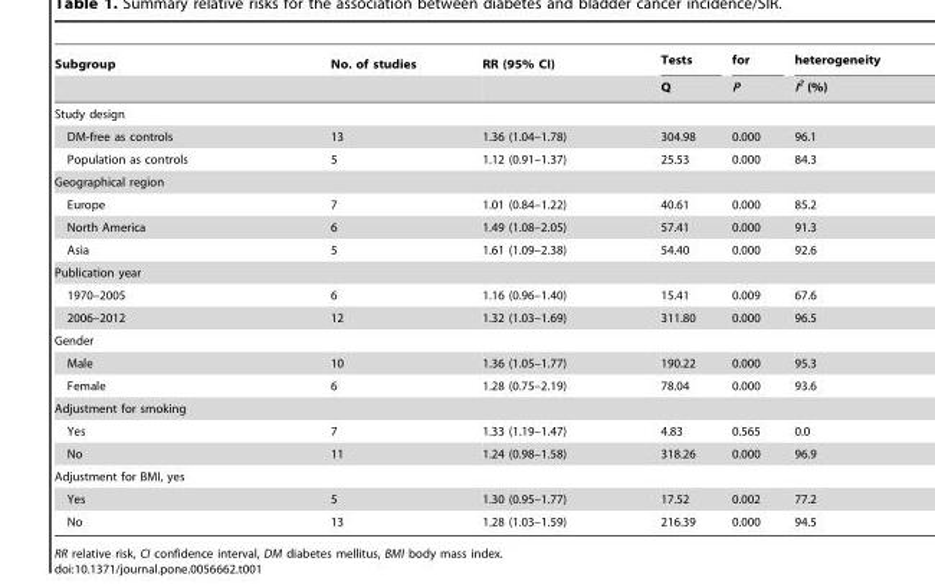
<table><thead><tr><td rowspan="2">Subgroup</td><td rowspan="2">No. of studies</td><td rowspan="2">RR (95% CI)</td><td rowspan="2">Tests Q</td><td rowspan="2">for P</td><td rowspan="2">heterogeneity I<sup>2</sup> (%)</td></tr><tr></tr></thead><tbody><tr><td colspan="6">Study design</td></tr><tr><td>DM-free as controls</td><td>13</td><td>1.36 (1.04–1.78)</td><td>304.98</td><td>0.000</td><td>96.1</td></tr><tr><td>Population as controls</td><td>5</td><td>1.12 (0.91–1.37)</td><td>25.53</td><td>0.000</td><td>84.3</td></tr><tr><td colspan="6">Geographical region</td></tr><tr><td>Europe</td><td>7</td><td>1.01 (0.84–1.22)</td><td>40.61</td><td>0.000</td><td>85.2</td></tr><tr><td>North America</td><td>6</td><td>1.49 (1.08–2.05)</td><td>57.41</td><td>0.000</td><td>91.3</td></tr><tr><td>Asia</td><td>5</td><td>1.61 (1.09–2.38)</td><td>54.40</td><td>0.000</td><td>92.6</td></tr><tr><td colspan="6">Publication year</td></tr><tr><td>1970–2005</td><td>6</td><td>1.16 (0.96–1.40)</td><td>15.41</td><td>0.009</td><td>67.6</td></tr><tr><td>2006–2012</td><td>12</td><td>1.32 (1.03–1.69)</td><td>311.80</td><td>0.000</td><td>96.5</td></tr><tr><td colspan="6">Gender</td></tr><tr><td>Male</td><td>10</td><td>1.36 (1.05–1.77)</td><td>190.22</td><td>0.000</td><td>95.3</td></tr><tr><td>Female</td><td>6</td><td>1.28 (0.75–2.19)</td><td>78.04</td><td>0.000</td><td>93.6</td></tr><tr><td colspan="6">Adjustment for smoking</td></tr><tr><td>Yes</td><td>7</td><td>1.33 (1.19–1.47)</td><td>4.83</td><td>0.565</td><td>0.0</td></tr><tr><td>No</td><td>11</td><td>1.24 (0.98–1.58)</td><td>318.26</td><td>0.000</td><td>96.9</td></tr><tr><td colspan="6">Adjustment for BMI, yes</td></tr><tr><td>Yes</td><td>5</td><td>1.30 (0.95–1.77)</td><td>17.52</td><td>0.002</td><td>77.2</td></tr><tr><td>No</td><td>13</td><td>1.28 (1.03–1.59)</td><td>216.39</td><td>0.000</td><td>94.5</td></tr></tbody></table>